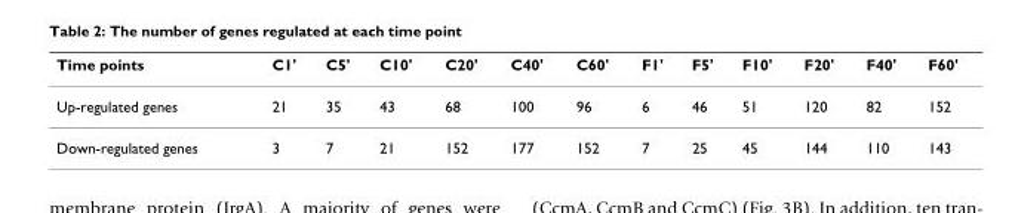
<table><thead><tr><td>Time points</td><td>C1&#x27;</td><td>C5&#x27;</td><td>C10&#x27;</td><td>C20&#x27;</td><td>C40&#x27;</td><td>C60&#x27;</td><td>F1&#x27;</td><td>F5&#x27;</td><td>F10&#x27;</td><td>F20&#x27;</td><td>F40&#x27;</td><td>F60&#x27;</td></tr></thead><tbody><tr><td>Up-regulated genes</td><td>21</td><td>35</td><td>43</td><td>68</td><td>100</td><td>96</td><td>6</td><td>46</td><td>51</td><td>120</td><td>82</td><td>152</td></tr><tr><td>Down-regulated genes</td><td>3</td><td>7</td><td>21</td><td>152</td><td>177</td><td>152</td><td>7</td><td>25</td><td>45</td><td>144</td><td>110</td><td>143</td></tr></tbody></table>